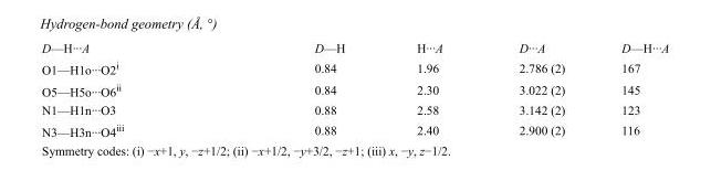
<table><tbody><tr><td>D—H···A</td><td>D—H</td><td>H···A</td><td>D···A</td><td>D—H···A</td></tr><tr><td>O1—H1o···O2<sup>i</sup></td><td>0.84</td><td>1.96</td><td>2.786 (2)</td><td>167</td></tr><tr><td>O5—H5o···O6<sup>ii</sup></td><td>0.84</td><td>2.30</td><td>3.022 (2)</td><td>145</td></tr><tr><td>N1—H1n···O3</td><td>0.88</td><td>2.58</td><td>3.142 (2)</td><td>123</td></tr><tr><td>N3—H3n···O4<sup>iii</sup></td><td>0.88</td><td>2.40</td><td>2.900 (2)</td><td>116</td></tr></tbody></table>